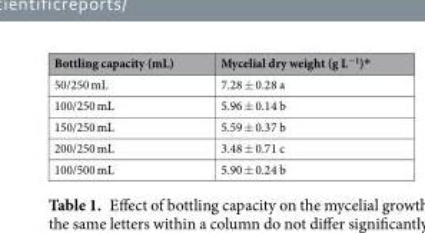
<table><thead><tr><td>Bottling capacity (mL)</td><td>Mycelial dry weight (g L<sup>−1</sup>)*</td></tr></thead><tbody><tr><td>50/250 mL</td><td>7.28 ± 0.28 a</td></tr><tr><td>100/250 mL</td><td>5.96 ± 0.14 b</td></tr><tr><td>150/250 mL</td><td>5.59 ± 0.37 b</td></tr><tr><td>200/250 mL</td><td>3.48 ± 0.71 c</td></tr><tr><td>100/500 mL</td><td>5.90 ± 0.24 b</td></tr></tbody></table>